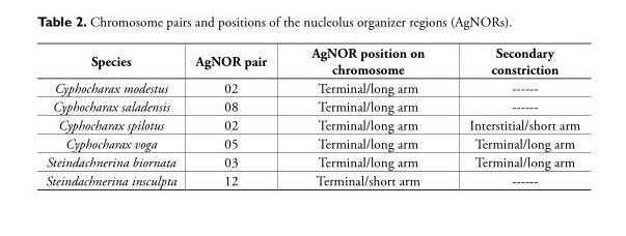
<table><thead><tr><td>Species</td><td>AgNOR pair</td><td>AgNOR position on chromosome</td><td>Secondary constriction</td></tr></thead><tbody><tr><td>Cyphocharax modestus</td><td>02</td><td>Terminal/long arm</td><td>------</td></tr><tr><td>Cyphocharax saladensis</td><td>08</td><td>Terminal/long arm</td><td>------</td></tr><tr><td>Cyphocharax spilotus</td><td>02</td><td>Terminal/long arm</td><td>Interstitial/short arm</td></tr><tr><td>Cyphocharax voga</td><td>05</td><td>Terminal/long arm</td><td>Terminal/long arm</td></tr><tr><td>Steindachnerina biornata</td><td>03</td><td>Terminal/long arm</td><td>Terminal/long arm</td></tr><tr><td>Steindachnerina insculpta</td><td>12</td><td>Terminal/short arm</td><td>------</td></tr></tbody></table>